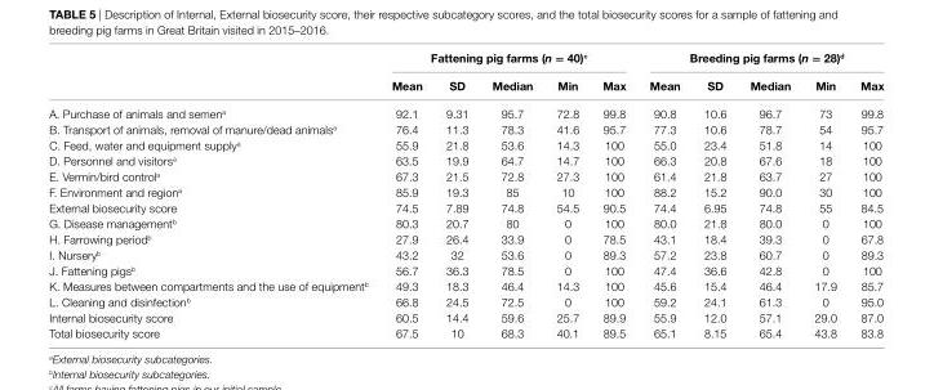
<table><thead><tr><td rowspan="2"></td><td colspan="5">Fattening pig farms (n = 40)<sup>c</sup></td><td colspan="5">Breeding pig farms (n = 28)<sup>d</sup></td></tr><tr><td>Mean</td><td>sD</td><td>Median</td><td>Min</td><td>Max</td><td>Mean</td><td>sD</td><td>Median</td><td>Min</td><td>Max</td></tr></thead><tbody><tr><td>A. Purchase of animals and semen<sup>a</sup></td><td>92.1</td><td>9.31</td><td>95.7</td><td>72.8</td><td>99.8</td><td>90.8</td><td>10.6</td><td>96.7</td><td>73</td><td>99.8</td></tr><tr><td>B. Transport of animals, removal of manure/dead animals<sup>a</sup></td><td>76.4</td><td>11.3</td><td>78.3</td><td>41.6</td><td>95.7</td><td>77.3</td><td>10.6</td><td>78.7</td><td>54</td><td>95.7</td></tr><tr><td>C. Feed, water and equipment supply<sup>a</sup></td><td>55.9</td><td>21.8</td><td>53.6</td><td>14.3</td><td>100</td><td>55.0</td><td>23.4</td><td>51.8</td><td>14</td><td>100</td></tr><tr><td>D. Personnel and visitors<sup>a</sup></td><td>63.5</td><td>19.9</td><td>64.7</td><td>14.7</td><td>100</td><td>66.3</td><td>20.8</td><td>67.6</td><td>18</td><td>100</td></tr><tr><td>E. Vermin/bird control<sup>a</sup></td><td>67.3</td><td>21.5</td><td>72.8</td><td>27.3</td><td>100</td><td>61.4</td><td>21.8</td><td>63.7</td><td>27</td><td>100</td></tr><tr><td>F. Environment and region<sup>a</sup></td><td>85.9</td><td>19.3</td><td>85</td><td>10</td><td>100</td><td>88.2</td><td>15.2</td><td>90.0</td><td>30</td><td>100</td></tr><tr><td>External biosecurity score</td><td>74.5</td><td>7.89</td><td>74.8</td><td>54.5</td><td>90.5</td><td>74.4</td><td>6.95</td><td>74.8</td><td>55</td><td>84.5</td></tr><tr><td>G. Disease management<sup>b</sup></td><td>80.3</td><td>20.7</td><td>80</td><td>0</td><td>100</td><td>80.0</td><td>21.8</td><td>80.0</td><td>0</td><td>100</td></tr><tr><td>H. Farrowing period<sup>b</sup></td><td>27.9</td><td>26.4</td><td>33.9</td><td>0</td><td>78.5</td><td>43.1</td><td>18.4</td><td>39.3</td><td>0</td><td>67.8</td></tr><tr><td>I. Nursery<sup>b</sup></td><td>43.2</td><td>32</td><td>53.6</td><td>0</td><td>89.3</td><td>57.2</td><td>23.8</td><td>60.7</td><td>0</td><td>89.3</td></tr><tr><td>J. Fattening pigs<sup>b</sup></td><td>56.7</td><td>36.3</td><td>78.5</td><td>0</td><td>100</td><td>47.4</td><td>36.6</td><td>42.8</td><td>0</td><td>100</td></tr><tr><td>K. Measures between compartments and the use of equipment<sup>b</sup></td><td>49.3</td><td>18.3</td><td>46.4</td><td>14.3</td><td>100</td><td>45.6</td><td>15.4</td><td>46.4</td><td>17.9</td><td>85.7</td></tr><tr><td>L. Cleaning and disinfection<sup>b</sup></td><td>66.8</td><td>24.5</td><td>72.5</td><td>0</td><td>100</td><td>59.2</td><td>24.1</td><td>61.3</td><td>0</td><td>95.0</td></tr><tr><td>Internal biosecurity score</td><td>60.5</td><td>14.4</td><td>59.6</td><td>25.7</td><td>89.9</td><td>55.9</td><td>12.0</td><td>57.1</td><td>29.0</td><td>87.0</td></tr><tr><td>Total biosecurity score</td><td>67.5</td><td>10</td><td>68.3</td><td>40.1</td><td>89.5</td><td>65.1</td><td>8.15</td><td>65.4</td><td>43.8</td><td>83.8</td></tr></tbody></table>